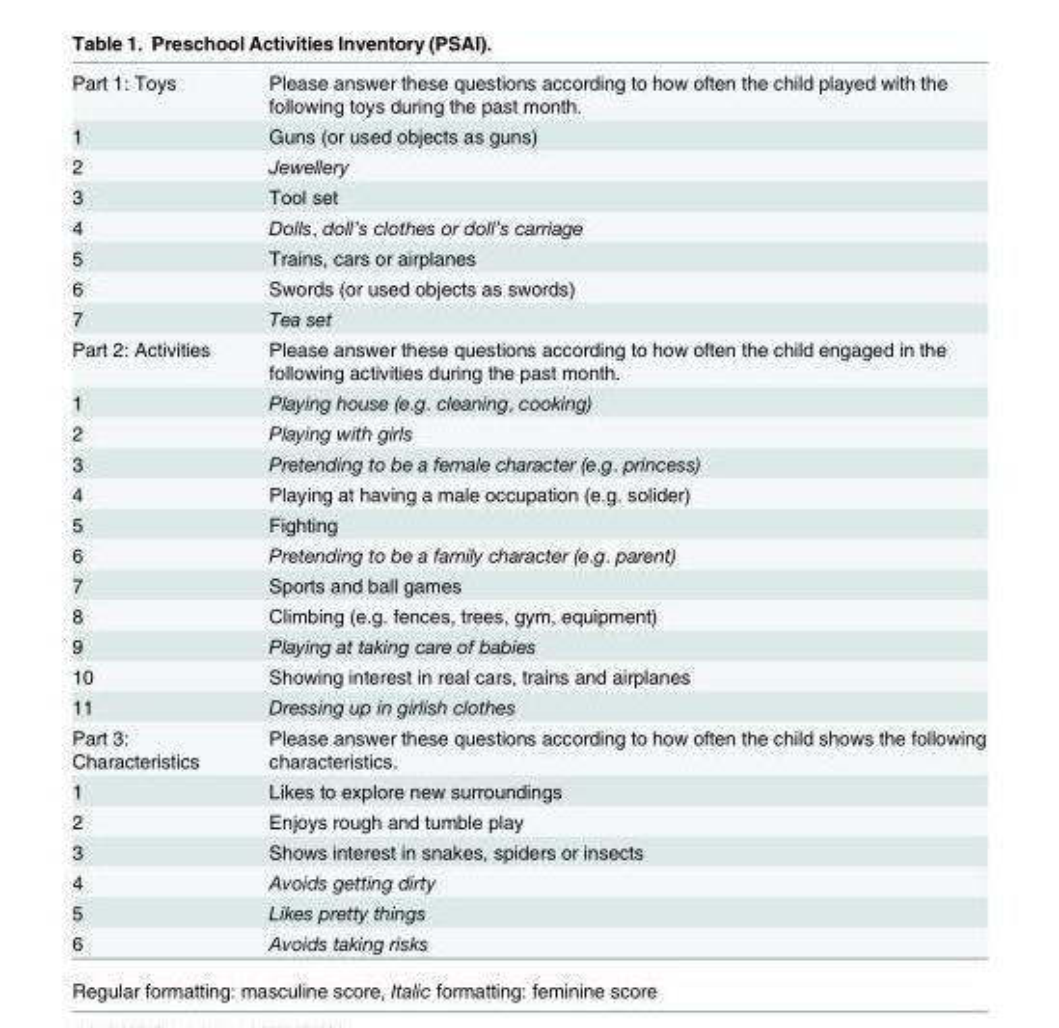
<table><tbody><tr><td>Part 1: Toys</td><td>Please answer these questions according to how often the child played with the following toys during the past month.</td></tr><tr><td>1</td><td>Guns (or used objects as guns)</td></tr><tr><td>2</td><td>Jewellery</td></tr><tr><td>3</td><td>Tool set</td></tr><tr><td>4</td><td>Dolls, doll’s clothes or doll’s carriage</td></tr><tr><td>5</td><td>Trains, cars or airplanes</td></tr><tr><td>6</td><td>Swords (or used objects as swords)</td></tr><tr><td>7</td><td>Tea set</td></tr><tr><td>Part 2: Activities</td><td>Please answer these questions according to how often the child engaged in the following activities during the past month.</td></tr><tr><td>1</td><td>Playing house (e.g. cleaning, cooking)</td></tr><tr><td>2</td><td>Playing with girls</td></tr><tr><td>3</td><td>Pretending to be a female character (e.g. princess)</td></tr><tr><td>4</td><td>Playing at having a male occupation (e.g. solider)</td></tr><tr><td>5</td><td>Fighting</td></tr><tr><td>6</td><td>Pretending to be a family character (e.g. parent)</td></tr><tr><td>7</td><td>Sports and ball games</td></tr><tr><td>8</td><td>Climbing (e.g. fences, trees, gym, equipment)</td></tr><tr><td>9</td><td>Playing at taking care of babies</td></tr><tr><td>10</td><td>Showing interest in real cars, trains and airplanes</td></tr><tr><td>11</td><td>Dressing up in girlish clothes</td></tr><tr><td>Part 3: Characteristics</td><td>Please answer these questions according to how often the child shows the following characteristics.</td></tr><tr><td>1</td><td>Likes to explore new surroundings</td></tr><tr><td>2</td><td>Enjoys rough and tumble play</td></tr><tr><td>3</td><td>Shows interest in snakes, spiders or insects</td></tr><tr><td>4</td><td>Avoids getting dirty</td></tr><tr><td>5</td><td>Likes pretty things</td></tr><tr><td>6</td><td>Avoids taking risks</td></tr></tbody></table>